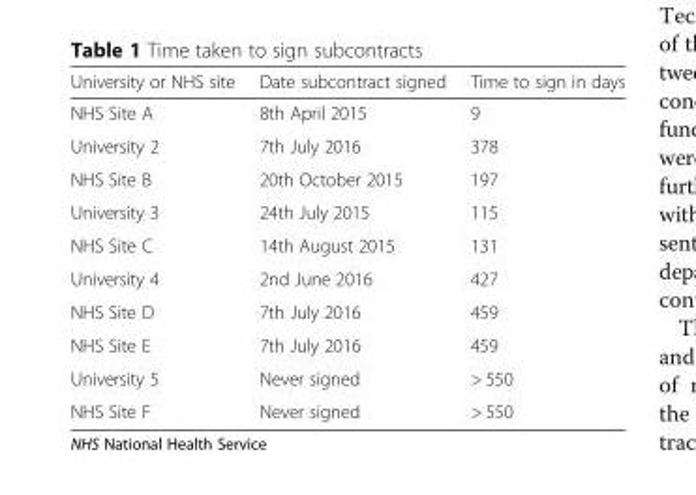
<table><thead><tr><td>University or NHS site</td><td>Date subcontract signed</td><td>Time to sign in days</td></tr></thead><tbody><tr><td>NHS Site A</td><td>8th April 2015</td><td>9</td></tr><tr><td>University 2</td><td>7th July 2016</td><td>378</td></tr><tr><td>NHS Site B</td><td>20th October 2015</td><td>197</td></tr><tr><td>University 3</td><td>24th July 2015</td><td>115</td></tr><tr><td>NHS Site C</td><td>14th August 2015</td><td>131</td></tr><tr><td>University 4</td><td>2nd June 2016</td><td>427</td></tr><tr><td>NHS Site D</td><td>7th July 2016</td><td>459</td></tr><tr><td>NHS Site E</td><td>7th July 2016</td><td>459</td></tr><tr><td>University 5</td><td>Never signed</td><td>&gt; 550</td></tr><tr><td>NHS Site F</td><td>Never signed</td><td>&gt; 550</td></tr></tbody></table>